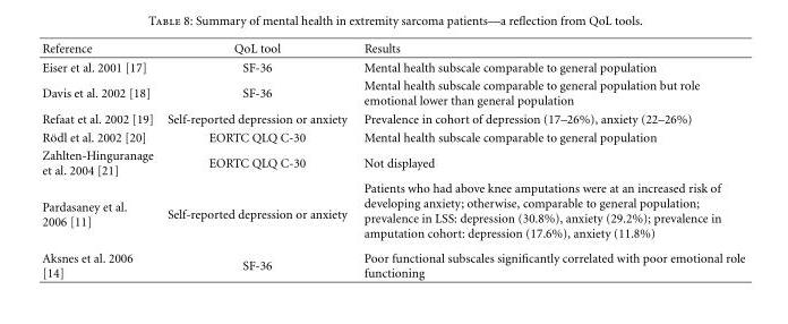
<table><thead><tr><td>Reference</td><td>QoL tool</td><td>Results</td></tr></thead><tbody><tr><td>Eiser et al. 2001 [17]</td><td>SF-36</td><td>Mental health subscale comparable to general population</td></tr><tr><td>Davis et al. 2002 [18]</td><td>SF-36</td><td>Mental health subscale comparable to general population but role emotional lower than general population</td></tr><tr><td>Refaat et al. 2002 [19]</td><td>Self-reported depression or anxiety</td><td>Prevalence in cohort of depression (17–26%), anxiety (22–26%)</td></tr><tr><td>R¨odl et al. 2002 [20]</td><td>EORTC QLQ C-30</td><td>Mental health subscale comparable to general population</td></tr><tr><td>Zahlten-Hinguranage et al. 2004 [21]</td><td>EORTC QLQ C-30</td><td>Not displayed</td></tr><tr><td>Pardasaney et al. 2006 [11]</td><td>Self-reported depression or anxiety</td><td>Patients who had above knee amputations were at an increased risk of developing anxiety; otherwise, comparable to general population; prevalence in LSS: depression (30.8%), anxiety (29.2%); prevalence in amputation cohort: depression (17.6%), anxiety (11.8%)</td></tr><tr><td>Aksnes et al. 2006 [14]</td><td>SF-36</td><td>Poor functional subscales significantly correlated with poor emotional role functioning</td></tr></tbody></table>